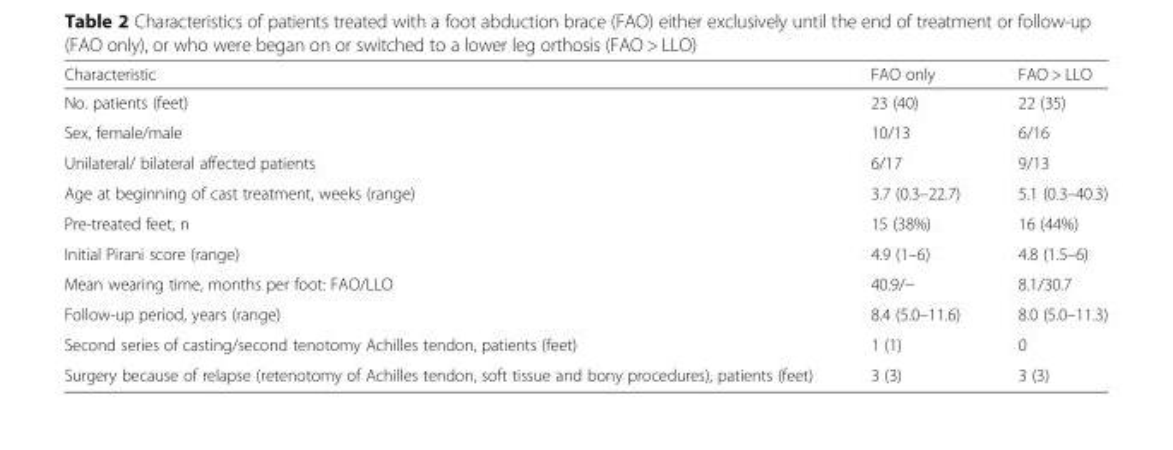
<table><thead><tr><td>Characteristic</td><td>FAO only</td><td>FAO &gt; LLO</td></tr></thead><tbody><tr><td>No. patients (feet)</td><td>23 (40)</td><td>22 (35)</td></tr><tr><td>Sex, female/male</td><td>10/13</td><td>6/16</td></tr><tr><td>Unilateral/ bilateral affected patients</td><td>6/17</td><td>9/13</td></tr><tr><td>Age at beginning of cast treatment, weeks (range)</td><td>3.7 (0.3–22.7)</td><td>5.1 (0.3–40.3)</td></tr><tr><td>Pre-treated feet, n</td><td>15 (38%)</td><td>16 (44%)</td></tr><tr><td>Initial Pirani score (range)</td><td>4.9 (1–6)</td><td>4.8 (1.5–6)</td></tr><tr><td>Mean wearing time, months per foot: FAO/LLO</td><td>40.9/−</td><td>8.1/30.7</td></tr><tr><td>Follow-up period, years (range)</td><td>8.4 (5.0–11.6)</td><td>8.0 (5.0–11.3)</td></tr><tr><td>Second series of casting/second tenotomy Achilles tendon, patients (feet)</td><td>1 (1)</td><td>0</td></tr><tr><td>Surgery because of relapse (retenotomy of Achilles tendon, soft tissue and bony procedures), patients (feet)</td><td>3 (3)</td><td>3 (3)</td></tr></tbody></table>